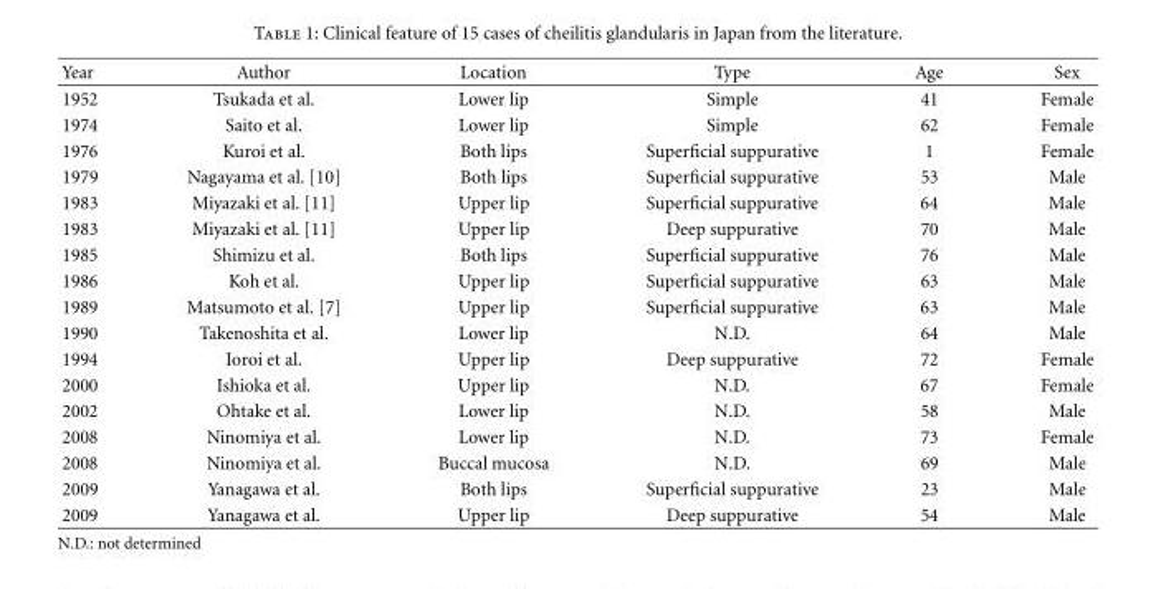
<table><thead><tr><td>Year</td><td>Author</td><td>Location</td><td>Type</td><td>Age</td><td>Sex</td></tr></thead><tbody><tr><td>1952</td><td>Tsukada et al.</td><td>Lower lip</td><td>Simple</td><td>41</td><td>Female</td></tr><tr><td>1974</td><td>Saito et al.</td><td>Lower lip</td><td>Simple</td><td>62</td><td>Female</td></tr><tr><td>1976</td><td>Kuroi et al.</td><td>Both lips</td><td>Superficial suppurative</td><td>1</td><td>Female</td></tr><tr><td>1979</td><td>Nagayama et al. [10]</td><td>Both lips</td><td>Superficial suppurative</td><td>53</td><td>Male</td></tr><tr><td>1983</td><td>Miyazaki et al. [11]</td><td>Upper lip</td><td>Superficial suppurative</td><td>64</td><td>Male</td></tr><tr><td>1983</td><td>Miyazaki et al. [11]</td><td>Upper lip</td><td>Deep suppurative</td><td>70</td><td>Male</td></tr><tr><td>1985</td><td>Shimizu et al.</td><td>Both lips</td><td>Superficial suppurative</td><td>76</td><td>Male</td></tr><tr><td>1986</td><td>Koh et al.</td><td>Upper lip</td><td>Superficial suppurative</td><td>63</td><td>Male</td></tr><tr><td>1989</td><td>Matsumoto et al. [7]</td><td>Upper lip</td><td>Superficial suppurative</td><td>63</td><td>Male</td></tr><tr><td>1990</td><td>Takenoshita et al.</td><td>Lower lip</td><td>N.D.</td><td>64</td><td>Male</td></tr><tr><td>1994</td><td>Ioroi et al.</td><td>Upper lip</td><td>Deep suppurative</td><td>72</td><td>Female</td></tr><tr><td>2000</td><td>Ishioka et al.</td><td>Upper lip</td><td>N.D.</td><td>67</td><td>Female</td></tr><tr><td>2002</td><td>Ohtake et al.</td><td>Lower lip</td><td>N.D.</td><td>58</td><td>Male</td></tr><tr><td>2008</td><td>Ninomiya et al.</td><td>Lower lip</td><td>N.D.</td><td>73</td><td>Female</td></tr><tr><td>2008</td><td>Ninomiya et al.</td><td>Buccal mucosa</td><td>N.D.</td><td>69</td><td>Male</td></tr><tr><td>2009</td><td>Yanagawa et al.</td><td>Both lips</td><td>Superficial suppurative</td><td>23</td><td>Male</td></tr><tr><td>2009</td><td>Yanagawa et al.</td><td>Upper lip</td><td>Deep suppurative</td><td>54</td><td>Male</td></tr></tbody></table>